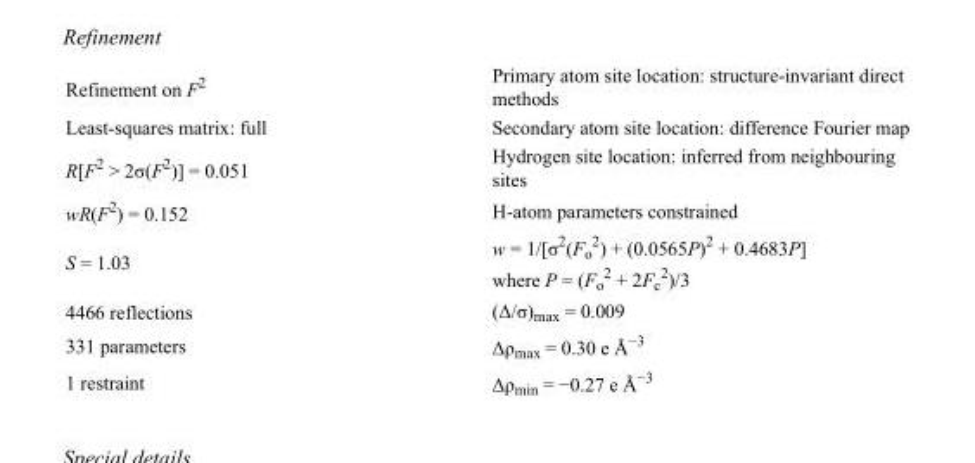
<table><tbody><tr><td>Refinement on F<sup>2</sup></td><td>Primary atom site location: structure-invariant direct methods</td></tr><tr><td>Least-squares matrix: full</td><td>Secondary atom site location: difference Fourier map</td></tr><tr><td>R[F<sup>2</sup> &gt; 2σ(F<sup>2</sup>)] = 0.051</td><td>Hydrogen site location: inferred from neighbouring sites</td></tr><tr><td>wR(F<sup>2</sup>) = 0.152</td><td>H-atom parameters constrained</td></tr><tr><td>S = 1.03</td><td>w = 1/[σ<sup>2</sup>(F<sub>o</sub> <sup>2</sup>) + (0.0565P)<sup>2</sup> + 0.4683P] where P = (F<sub>o</sub> <sup>2</sup> + 2F<sub>c</sub> <sup>2</sup>)/3</td></tr><tr><td>4466 reflections</td><td>(Δ/σ)<sub>max</sub> = 0.009</td></tr><tr><td>331 parameters</td><td>Δρ<sub>max</sub> = 0.30 e Å<sup>−3</sup></td></tr><tr><td>1 restraint</td><td>Δρ<sub>min</sub> = −0.27 e Å<sup>−3</sup></td></tr></tbody></table>